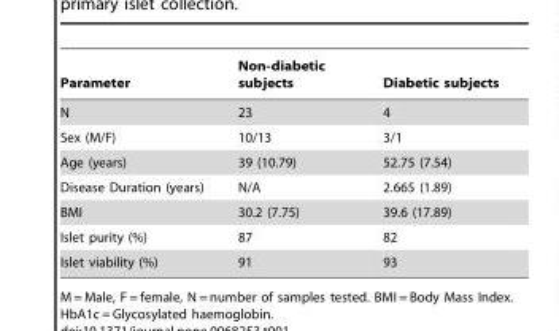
<table><thead><tr><td>Parameter</td><td>Non-diabetic subjects</td><td>Diabetic subjects</td></tr></thead><tbody><tr><td>N</td><td>23</td><td>4</td></tr><tr><td>Sex (M/F)</td><td>10/13</td><td>3/1</td></tr><tr><td>Age (years)</td><td>39 (10.79)</td><td>52.75 (7.54)</td></tr><tr><td>Disease Duration (years)</td><td>N/A</td><td>2.665 (1.89)</td></tr><tr><td>BMI</td><td>30.2 (7.75)</td><td>39.6 (17.89)</td></tr><tr><td>Islet purity (%)</td><td>87</td><td>82</td></tr><tr><td>Islet viability (%)</td><td>91</td><td>93</td></tr></tbody></table>